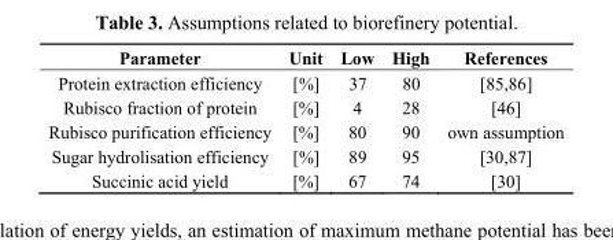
<table><thead><tr><td>Parameter</td><td>Unit</td><td>Low</td><td>High</td><td>References</td></tr></thead><tbody><tr><td>Protein extraction efficiency</td><td>[%]</td><td>37</td><td>80</td><td>[85,86]</td></tr><tr><td>Rubisco fraction of protein</td><td>[%]</td><td>4</td><td>28</td><td>[46]</td></tr><tr><td>Rubisco purification efficiency</td><td>[%]</td><td>80</td><td>90</td><td>own assumption</td></tr><tr><td>Sugar hydrolisation efficiency</td><td>[%]</td><td>89</td><td>95</td><td>[30,87]</td></tr><tr><td>Succinic acid yield</td><td>[%]</td><td>67</td><td>74</td><td>[30]</td></tr></tbody></table>